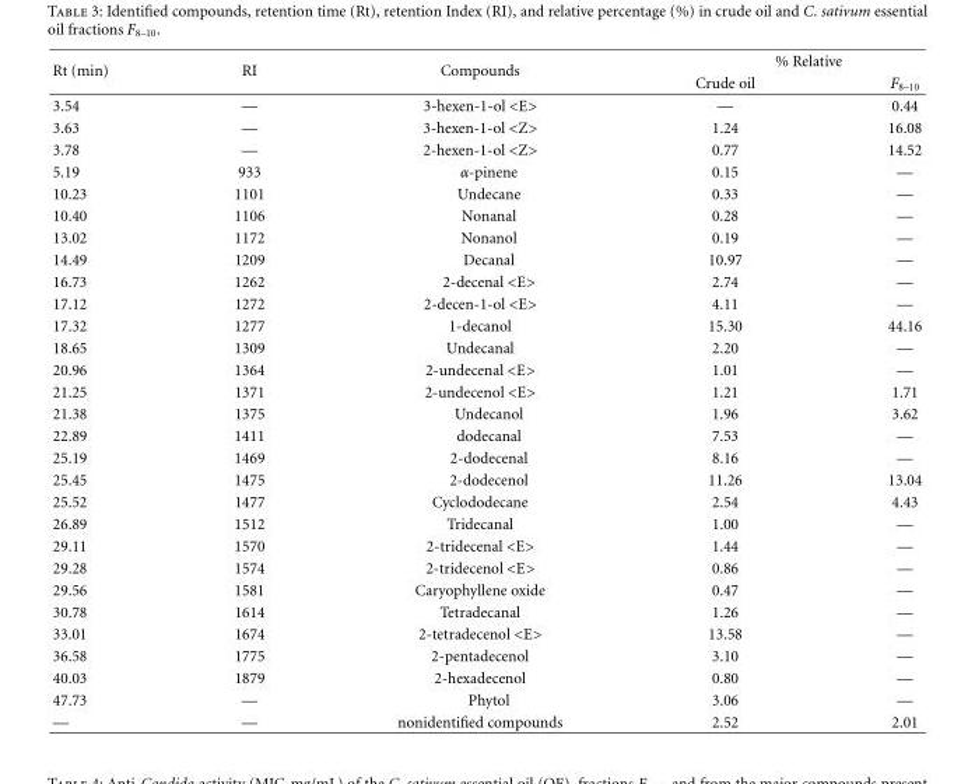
<table><thead><tr><td rowspan="2">Rt (min)</td><td rowspan="2">RI</td><td rowspan="2">Compounds</td><td colspan="2">% Relative</td></tr><tr><td>Crude oil</td><td>F<sub>8–10</sub></td></tr></thead><tbody><tr><td>3.54</td><td>—</td><td>3-hexen-1-ol &lt;E&gt;</td><td>—</td><td>0.44</td></tr><tr><td>3.63</td><td>—</td><td>3-hexen-1-ol &lt;Z&gt;</td><td>1.24</td><td>16.08</td></tr><tr><td>3.78</td><td>—</td><td>2-hexen-1-ol &lt;Z&gt;</td><td>0.77</td><td>14.52</td></tr><tr><td>5.19</td><td>933</td><td>α-pinene</td><td>0.15</td><td>—</td></tr><tr><td>10.23</td><td>1101</td><td>Undecane</td><td>0.33</td><td>—</td></tr><tr><td>10.40</td><td>1106</td><td>Nonanal</td><td>0.28</td><td>—</td></tr><tr><td>13.02</td><td>1172</td><td>Nonanol</td><td>0.19</td><td>—</td></tr><tr><td>14.49</td><td>1209</td><td>Decanal</td><td>10.97</td><td>—</td></tr><tr><td>16.73</td><td>1262</td><td>2-decenal &lt;E&gt;</td><td>2.74</td><td>—</td></tr><tr><td>17.12</td><td>1272</td><td>2-decen-1-ol &lt;E&gt;</td><td>4.11</td><td>—</td></tr><tr><td>17.32</td><td>1277</td><td>1-decanol</td><td>15.30</td><td>44.16</td></tr><tr><td>18.65</td><td>1309</td><td>Undecanal</td><td>2.20</td><td>—</td></tr><tr><td>20.96</td><td>1364</td><td>2-undecenal &lt;E&gt;</td><td>1.01</td><td>—</td></tr><tr><td>21.25</td><td>1371</td><td>2-undecenol &lt;E&gt;</td><td>1.21</td><td>1.71</td></tr><tr><td>21.38</td><td>1375</td><td>Undecanol</td><td>1.96</td><td>3.62</td></tr><tr><td>22.89</td><td>1411</td><td>dodecanal</td><td>7.53</td><td>—</td></tr><tr><td>25.19</td><td>1469</td><td>2-dodecenal</td><td>8.16</td><td>—</td></tr><tr><td>25.45</td><td>1475</td><td>2-dodecenol</td><td>11.26</td><td>13.04</td></tr><tr><td>25.52</td><td>1477</td><td>Cyclododecane</td><td>2.54</td><td>4.43</td></tr><tr><td>26.89</td><td>1512</td><td>Tridecanal</td><td>1.00</td><td>—</td></tr><tr><td>29.11</td><td>1570</td><td>2-tridecenal &lt;E&gt;</td><td>1.44</td><td>—</td></tr><tr><td>29.28</td><td>1574</td><td>2-tridecenol &lt;E&gt;</td><td>0.86</td><td>—</td></tr><tr><td>29.56</td><td>1581</td><td>Caryophyllene oxide</td><td>0.47</td><td>—</td></tr><tr><td>30.78</td><td>1614</td><td>Tetradecanal</td><td>1.26</td><td>—</td></tr><tr><td>33.01</td><td>1674</td><td>2-tetradecenol &lt;E&gt;</td><td>13.58</td><td>—</td></tr><tr><td>36.58</td><td>1775</td><td>2-pentadecenol</td><td>3.10</td><td>—</td></tr><tr><td>40.03</td><td>1879</td><td>2-hexadecenol</td><td>0.80</td><td>—</td></tr><tr><td>47.73</td><td>—</td><td>Phytol</td><td>3.06</td><td>—</td></tr><tr><td>—</td><td>—</td><td>nonidentified compounds</td><td>2.52</td><td>2.01</td></tr></tbody></table>